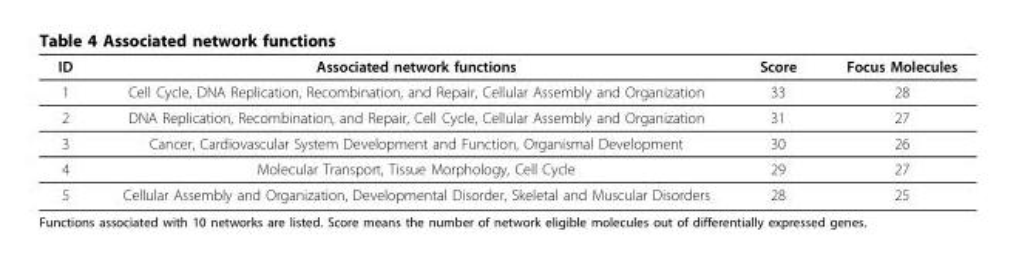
<table><thead><tr><td>ID</td><td>Associated network functions</td><td>Score</td><td>Focus Molecules</td></tr></thead><tbody><tr><td>1</td><td>Cell Cycle, DNA Replication, Recombination, and Repair, Cellular Assembly and Organization</td><td>33</td><td>28</td></tr><tr><td>2</td><td>DNA Replication, Recombination, and Repair, Cell Cycle, Cellular Assembly and Organization</td><td>31</td><td>27</td></tr><tr><td>3</td><td>Cancer, Cardiovascular System Development and Function, Organismal Development</td><td>30</td><td>26</td></tr><tr><td>4</td><td>Molecular Transport, Tissue Morphology, Cell Cycle</td><td>29</td><td>27</td></tr><tr><td>5</td><td>Cellular Assembly and Organization, Developmental Disorder, Skeletal and Muscular Disorders</td><td>28</td><td>25</td></tr></tbody></table>